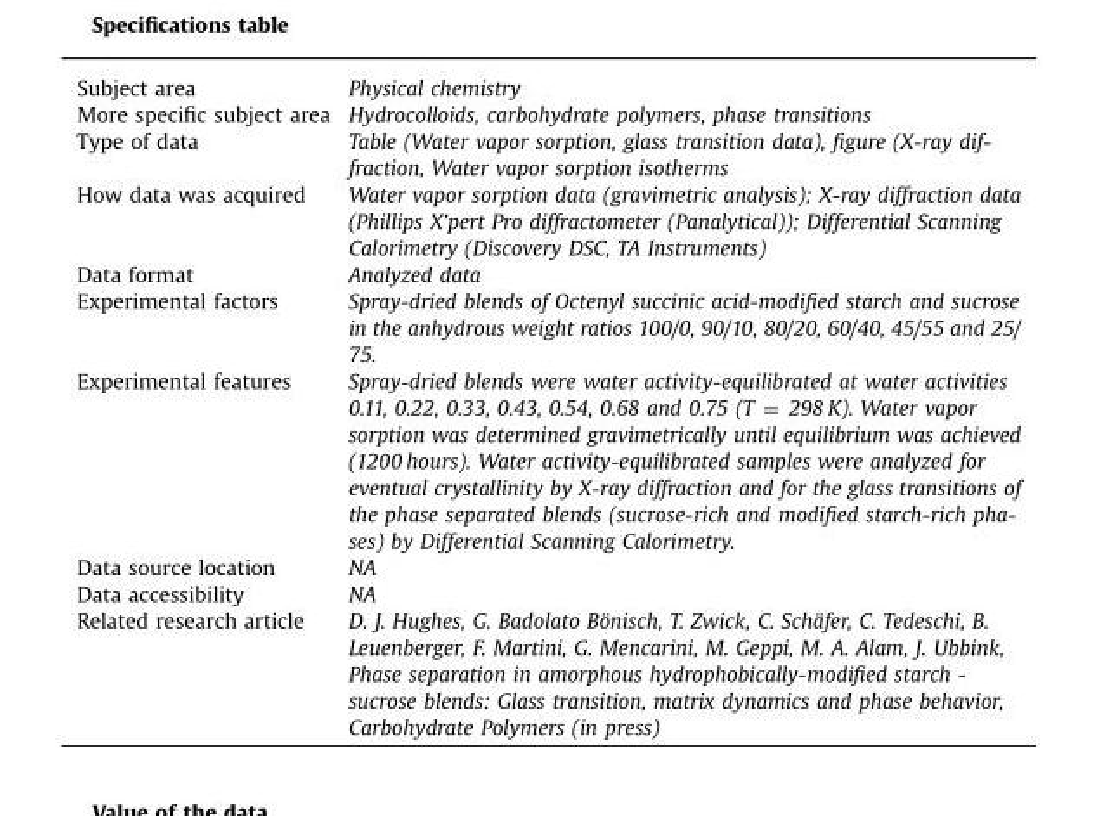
<table><tbody><tr><td>Subject area</td><td>Physical chemistry</td></tr><tr><td>More specific subject area</td><td>Hydrocolloids, carbohydrate polymers, phase transitions</td></tr><tr><td>Type of data</td><td>Table (Water vapor sorption, glass transition data), figure (X-ray dif- fraction, Water vapor sorption isotherms</td></tr><tr><td>How data was acquired</td><td>Water vapor sorption data (gravimetric analysis); X-ray diffraction data (Phillips X’pert Pro diffractometer (Panalytical)); Differential Scanning Calorimetry (Discovery DSC, TA Instruments)</td></tr><tr><td>Data format</td><td>Analyzed data</td></tr><tr><td>Experimental factors</td><td>Spray-dried blends of Octenyl succinic acid-modified starch and sucrose in the anhydrous weight ratios 100/0, 90/10, 80/20, 60/40, 45/55 and 25/ 75.</td></tr><tr><td>Experimental features</td><td>Spray-dried blends were water activity-equilibrated at water activities 0.11, 0.22, 0.33, 0.43, 0.54, 0.68 and 0.75 (T ¼ 298 K). Water vapor sorption was determined gravimetrically until equilibrium was achieved (1200 hours). Water activity-equilibrated samples were analyzed for eventual crystallinity by X-ray diffraction and for the glass transitions of the phase separated blends (sucrose-rich and modified starch-rich pha- ses) by Differential Scanning Calorimetry.</td></tr><tr><td>Data source location</td><td>NA</td></tr><tr><td>Data accessibility</td><td>NA</td></tr><tr><td>Related research article</td><td>D. J. Hughes, G. Badolato Bönisch, T. Zwick, C. Schäfer, C. Tedeschi, B. Leuenberger, F. Martini, G. Mencarini, M. Geppi, M. A. Alam, J. Ubbink, Phase separation in amorphous hydrophobically-modified starch - sucrose blends: Glass transition, matrix dynamics and phase behavior, Carbohydrate Polymers (in press)</td></tr></tbody></table>